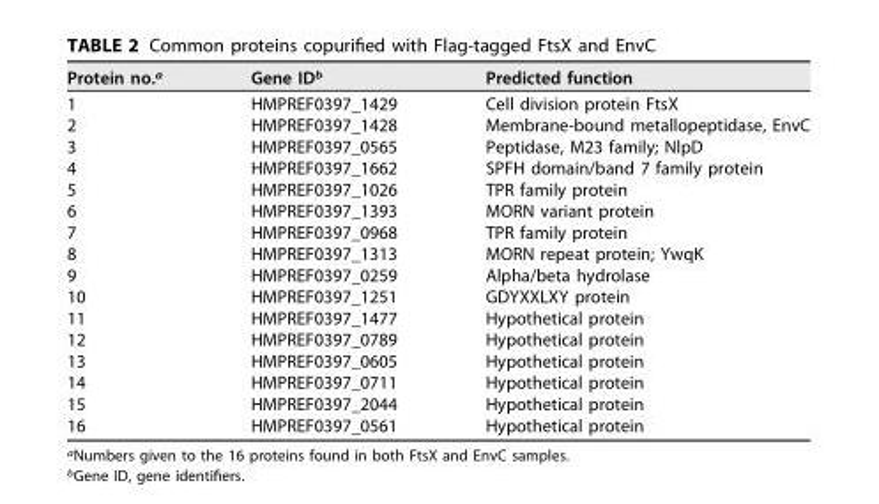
<table><thead><tr><td>Protein no.<sup>a</sup></td><td>Gene ID<sup>b</sup></td><td>Predicted function</td></tr></thead><tbody><tr><td>1</td><td>HMPREF0397_1429</td><td>Cell division protein FtsX</td></tr><tr><td>2</td><td>HMPREF0397_1428</td><td>Membrane-bound metallopeptidase, EnvC</td></tr><tr><td>3</td><td>HMPREF0397_0565</td><td>Peptidase, M23 family; NlpD</td></tr><tr><td>4</td><td>HMPREF0397_1662</td><td>SPFH domain/band 7 family protein</td></tr><tr><td>5</td><td>HMPREF0397_1026</td><td>TPR family protein</td></tr><tr><td>6</td><td>HMPREF0397_1393</td><td>MORN variant protein</td></tr><tr><td>7</td><td>HMPREF0397_0968</td><td>TPR family protein</td></tr><tr><td>8</td><td>HMPREF0397_1313</td><td>MORN repeat protein; YwqK</td></tr><tr><td>9</td><td>HMPREF0397_0259</td><td>Alpha/beta hydrolase</td></tr><tr><td>10</td><td>HMPREF0397_1251</td><td>GDYXXLXY protein</td></tr><tr><td>11</td><td>HMPREF0397_1477</td><td>Hypothetical protein</td></tr><tr><td>12</td><td>HMPREF0397_0789</td><td>Hypothetical protein</td></tr><tr><td>13</td><td>HMPREF0397_0605</td><td>Hypothetical protein</td></tr><tr><td>14</td><td>HMPREF0397_0711</td><td>Hypothetical protein</td></tr><tr><td>15</td><td>HMPREF0397_2044</td><td>Hypothetical protein</td></tr><tr><td>16</td><td>HMPREF0397_0561</td><td>Hypothetical protein</td></tr></tbody></table>